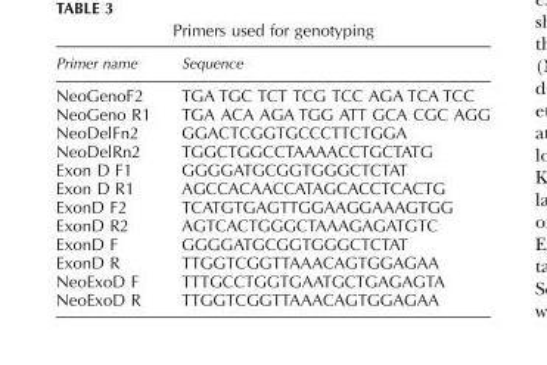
<table><thead><tr><td>Primer name</td><td>Sequence</td></tr></thead><tbody><tr><td>NeoGenoF2</td><td>TGA TGC TCT TCG TCC AGA TCA TCC</td></tr><tr><td>NeoGeno R1</td><td>TGA ACA AGA TGG ATT GCA CGC AGG</td></tr><tr><td>NeoDelFn2</td><td>GGACTCGGTGCCCTTCTGGA</td></tr><tr><td>NeoDelRn2</td><td>TGGCTGGCCTAAAACCTGCTATG</td></tr><tr><td>Exon D F1</td><td>GGGGATGCGGTGGGCTCTAT</td></tr><tr><td>Exon D R1</td><td>AGCCACAACCATAGCACCTCACTG</td></tr><tr><td>ExonD F2</td><td>TCATGTGAGTTGGAAGGAAAGTGG</td></tr><tr><td>ExonD R2</td><td>AGTCACTGGGCTAAAGAGATGTC</td></tr><tr><td>ExonD F</td><td>GGGGATGCGGTGGGCTCTAT</td></tr><tr><td>ExonD R</td><td>TTGGTCGGTTAAACAGTGGAGAA</td></tr><tr><td>NeoExoD F</td><td>TTTGCCTGGTGAATGCTGAGAGTA</td></tr><tr><td>NeoExoD R</td><td>TTGGTCGGTTAAACAGTGGAGAA</td></tr></tbody></table>